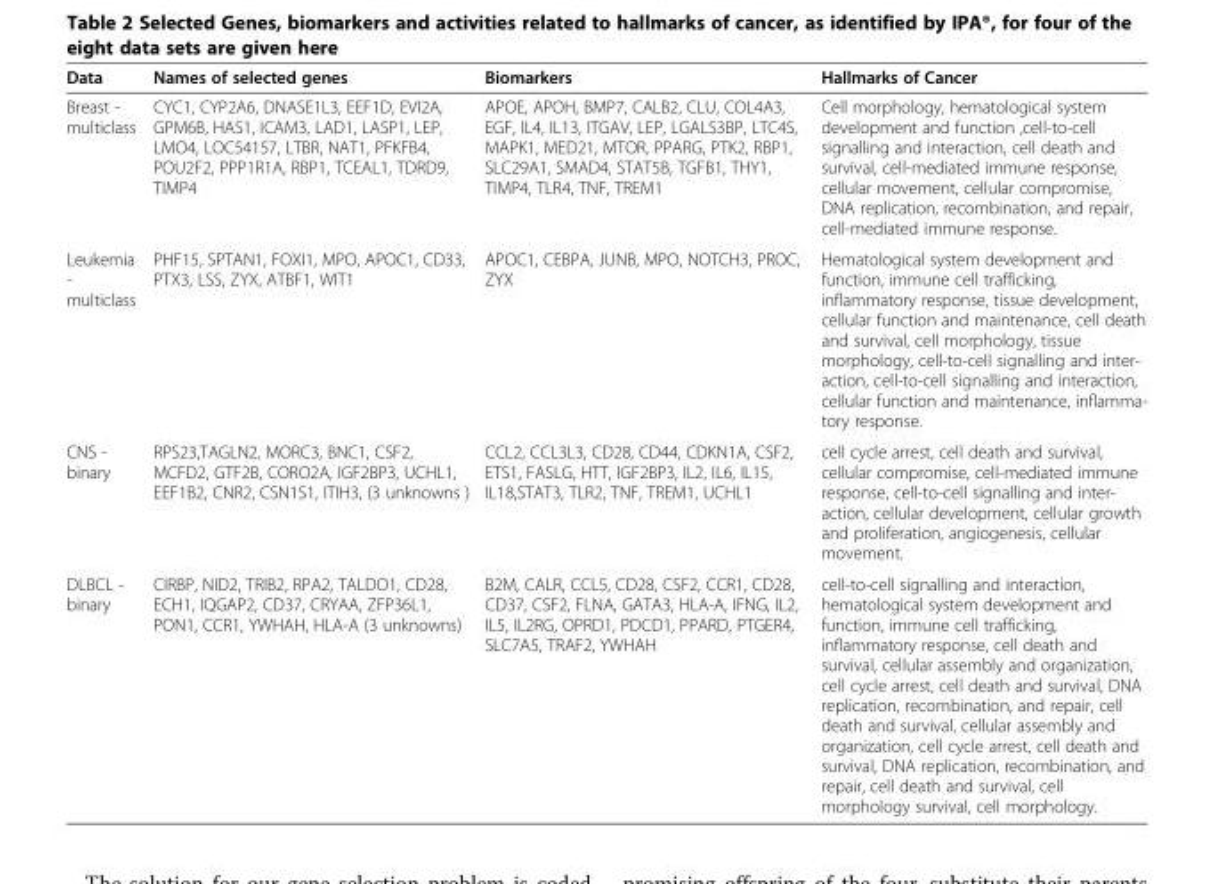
<table><thead><tr><td>Data</td><td>Names of selected genes</td><td>Biomarkers</td><td>Hallmarks of Cancer</td></tr></thead><tbody><tr><td>Breast - multiclass</td><td>CYC1, CYP2A6, DNASE1L3, EEF1D, EVI2A, GPM6B, HAS1, ICAM3, LAD1, LASP1, LEP, LMO4, LOC54157, LTBR, NAT1, PFKFB4, POU2F2, PPP1R1A, RBP1, TCEAL1, TDRD9, TIMP4</td><td>APOE, APOH, BMP7, CALB2, CLU, COL4A3, EGF, IL4, IL13, ITGAV, LEP, LGALS3BP, LTC4S, MAPK1, MED21, MTOR, PPARG, PTK2, RBP1, SLC29A1, SMAD4, STAT5B, TGFB1, THY1, TIMP4, TLR4, TNF, TREM1</td><td>Cell morphology, hematological system development and function ,cell-to-cell signalling and interaction, cell death and survival, cell-mediated immune response, cellular movement, cellular compromise, DNA replication, recombination, and repair, cell-mediated immune response.</td></tr><tr><td>Leukemia - multiclass</td><td>PHF15, SPTAN1, FOXI1, MPO, APOC1, CD33, PTX3, LSS, ZYX, ATBF1, WIT1</td><td>APOC1, CEBPA, JUNB, MPO, NOTCH3, PROC, ZYX</td><td>Hematological system development and function, immune cell trafficking, inflammatory response, tissue development, cellular function and maintenance, cell death and survival, cell morphology, tissue morphology, cell-to-cell signalling and inter- action, cell-to-cell signalling and interaction, cellular function and maintenance, inflamma- tory response.</td></tr><tr><td>CNS - binary</td><td>RPS23,TAGLN2, MORC3, BNC1, CSF2, MCFD2, GTF2B, CORO2A, IGF2BP3, UCHL1, EEF1B2, CNR2, CSN1S1, ITIH3, (3 unknowns )</td><td>CCL2, CCL3L3, CD28, CD44, CDKN1A, CSF2, ETS1, FASLG, HTT, IGF2BP3, IL2, IL6, IL15, IL18,STAT3, TLR2, TNF, TREM1, UCHL1</td><td>cell cycle arrest, cell death and survival, cellular compromise, cell-mediated immune response, cell-to-cell signalling and inter- action, cellular development, cellular growth and proliferation, angiogenesis, cellular movement.</td></tr><tr><td>DLBCL - binary</td><td>CIRBP, NID2, TRIB2, RPA2, TALDO1, CD28, ECH1, IQGAP2, CD37, CRYAA, ZFP36L1, PON1, CCR1, YWHAH, HLA-A (3 unknowns)</td><td>B2M, CALR, CCL5, CD28, CSF2, CCR1, CD28, CD37, CSF2, FLNA, GATA3, HLA-A, IFNG, IL2, IL5, IL2RG, OPRD1, PDCD1, PPARD, PTGER4, SLC7A5, TRAF2, YWHAH</td><td>cell-to-cell signalling and interaction, hematological system development and function, immune cell trafficking, inflammatory response, cell death and survival, cellular assembly and organization, cell cycle arrest, cell death and survival, DNA replication, recombination, and repair, cell death and survival, cellular assembly and organization, cell cycle arrest, cell death and survival, DNA replication, recombination, and repair, cell death and survival, cell morphology survival, cell morphology.</td></tr></tbody></table>